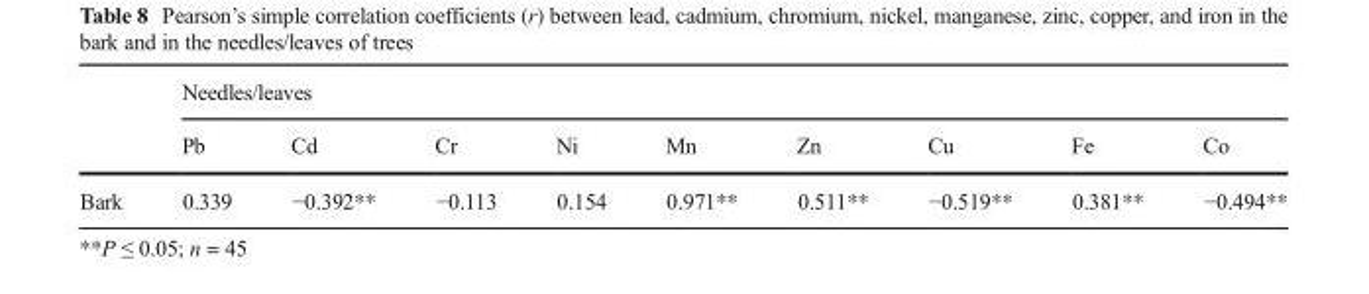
<table><thead><tr><td rowspan="2"></td><td colspan="9">Needles/leaves</td></tr><tr><td>Pb</td><td>Cd</td><td>Cr</td><td>Ni</td><td>Mn</td><td>Zn</td><td>Cu</td><td>Fe</td><td>Co</td></tr></thead><tbody><tr><td>Bark</td><td>0.339</td><td>−0.392**</td><td>−0.113</td><td>0.154</td><td>0.971**</td><td>0.511**</td><td>−0.519**</td><td>0.381**</td><td>−0.494**</td></tr></tbody></table>